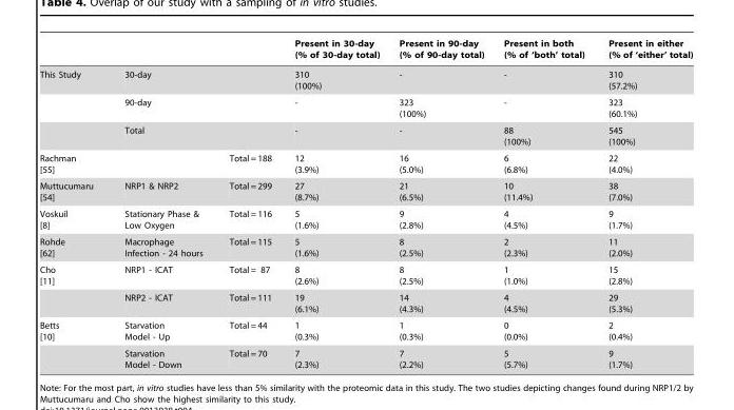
<table><thead><tr><td></td><td></td><td></td><td>Present in 30-day (% of 30-day total)</td><td>Present in 90-day (% of 90-day total)</td><td>Present in both (% of ‘both’ total)</td><td>Present in either (% of ‘either’ total)</td></tr></thead><tbody><tr><td rowspan="3">This Study</td><td colspan="2">30-day</td><td>310 (100%)</td><td>-</td><td>-</td><td>310 (57.2%)</td></tr><tr><td colspan="2">90-day</td><td>-</td><td>323 (100%)</td><td>-</td><td>323 (60.1%)</td></tr><tr><td colspan="2">Total</td><td>-</td><td>-</td><td>88 (100%)</td><td>545 (100%)</td></tr><tr><td>Rachman [55]</td><td></td><td>Total = 188</td><td>12 (3.9%)</td><td>16 (5.0%)</td><td>6 (6.8%)</td><td>22 (4.0%)</td></tr><tr><td>Muttucumaru [54]</td><td>NRP1 &amp; NRP2</td><td>Total = 299</td><td>27 (8.7%)</td><td>21 (6.5%)</td><td>10 (11.4%)</td><td>38 (7.0%)</td></tr><tr><td>Voskuil [8]</td><td>Stationary Phase &amp; Low Oxygen</td><td>Total = 116</td><td>5 (1.6%)</td><td>9 (2.8%)</td><td>4 (4.5%)</td><td>9 (1.7%)</td></tr><tr><td>Rohde [62]</td><td>Macrophage Infection - 24 hours</td><td>Total = 115</td><td>5 (1.6%)</td><td>8 (2.5%)</td><td>2 (2.3%)</td><td>11 (2.0%)</td></tr><tr><td rowspan="2">Cho [11]</td><td>NRP1 - ICAT</td><td>Total = 87</td><td>8 (2.6%)</td><td>8 (2.5%)</td><td>1 (1.0%)</td><td>15 (2.8%)</td></tr><tr><td>NRP2 - ICAT</td><td>Total = 111</td><td>19 (6.1%)</td><td>14 (4.3%)</td><td>4 (4.5%)</td><td>29 (5.3%)</td></tr><tr><td rowspan="2">Betts [10]</td><td>Starvation Model - Up</td><td>Total = 44</td><td>1 (0.3%)</td><td>1 (0.3%)</td><td>0 (0.0%)</td><td>2 (0.4%)</td></tr><tr><td>Starvation Model - Down</td><td>Total = 70</td><td>7 (2.3%)</td><td>7 (2.2%)</td><td>5 (5.7%)</td><td>9 (1.7%)</td></tr></tbody></table>